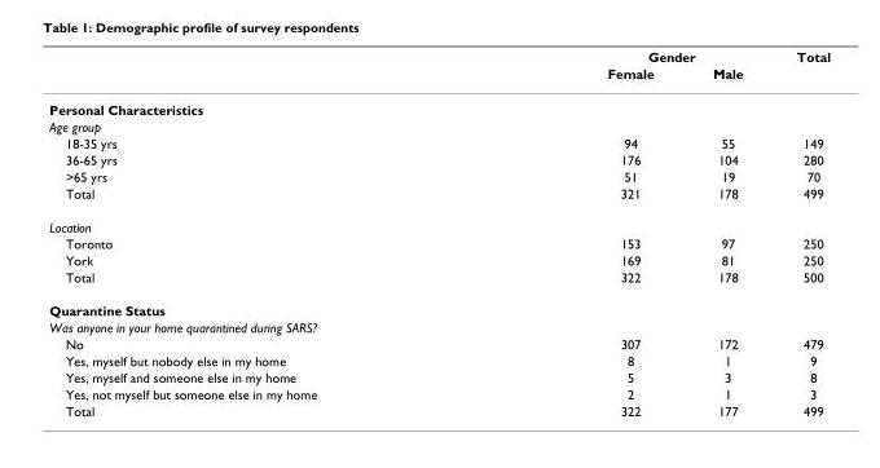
<table><thead><tr><td rowspan="2"></td><td colspan="2">Gender</td><td rowspan="2">Total</td></tr><tr><td>Female</td><td>Male</td></tr></thead><tbody><tr><td colspan="4">Personal Characteristics</td></tr><tr><td colspan="4">Age group</td></tr><tr><td>18-35 yrs</td><td>94</td><td>55</td><td>149</td></tr><tr><td>36-65 yrs</td><td>176</td><td>104</td><td>280</td></tr><tr><td>&gt;65 yrs</td><td>51</td><td>19</td><td>70</td></tr><tr><td>Total</td><td>321</td><td>178</td><td>499</td></tr><tr><td colspan="4">Location</td></tr><tr><td>Toronto</td><td>153</td><td>97</td><td>250</td></tr><tr><td>York</td><td>169</td><td>81</td><td>250</td></tr><tr><td>Total</td><td>322</td><td>178</td><td>500</td></tr><tr><td colspan="4">Quarantine Status</td></tr><tr><td colspan="4">Was anyone in your home quarantined during SARS?</td></tr><tr><td>No</td><td>307</td><td>172</td><td>479</td></tr><tr><td>Yes, myself but nobody else in my home</td><td>8</td><td>1</td><td>9</td></tr><tr><td>Yes, myself and someone else in my home</td><td>5</td><td>3</td><td>8</td></tr><tr><td>Yes, not myself but someone else in my home</td><td>2</td><td>1</td><td>3</td></tr><tr><td>Total</td><td>322</td><td>177</td><td>499</td></tr></tbody></table>